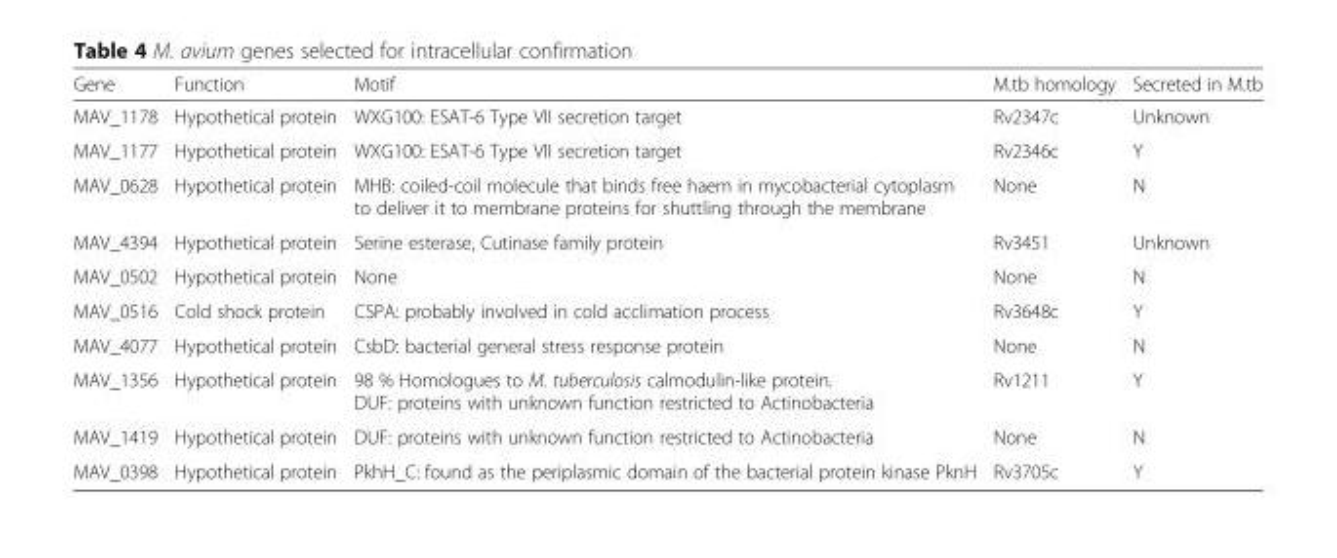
<table><thead><tr><td>Gene</td><td>Function</td><td>Motif</td><td>M.tb homology</td><td>Secreted in M.tb</td></tr></thead><tbody><tr><td>MAV_1178</td><td>Hypothetical protein</td><td>WXG100: ESAT-6 Type VII secretion target</td><td>Rv2347c</td><td>Unknown</td></tr><tr><td>MAV_1177</td><td>Hypothetical protein</td><td>WXG100: ESAT-6 Type VII secretion target</td><td>Rv2346c</td><td>Y</td></tr><tr><td>MAV_0628</td><td>Hypothetical protein</td><td>MHB: coiled-coil molecule that binds free haem in mycobacterial cytoplasm to deliver it to membrane proteins for shuttling through the membrane</td><td>None</td><td>N</td></tr><tr><td>MAV_4394</td><td>Hypothetical protein</td><td>Serine esterase, Cutinase family protein</td><td>Rv3451</td><td>Unknown</td></tr><tr><td>MAV_0502</td><td>Hypothetical protein</td><td>None</td><td>None</td><td>N</td></tr><tr><td>MAV_0516</td><td>Cold shock protein</td><td>CSPA: probably involved in cold acclimation process</td><td>Rv3648c</td><td>Y</td></tr><tr><td>MAV_4077</td><td>Hypothetical protein</td><td>CsbD: bacterial general stress response protein</td><td>None</td><td>N</td></tr><tr><td>MAV_1356</td><td>Hypothetical protein</td><td>98 % Homologues to M. tuberculosis calmodulin-like protein. DUF: proteins with unknown function restricted to Actinobacteria</td><td>Rv1211</td><td>Y</td></tr><tr><td>MAV_1419</td><td>Hypothetical protein</td><td>DUF: proteins with unknown function restricted to Actinobacteria</td><td>None</td><td>N</td></tr><tr><td>MAV_0398</td><td>Hypothetical protein</td><td>PkhH_C: found as the periplasmic domain of the bacterial protein kinase PknH</td><td>Rv3705c</td><td>Y</td></tr></tbody></table>